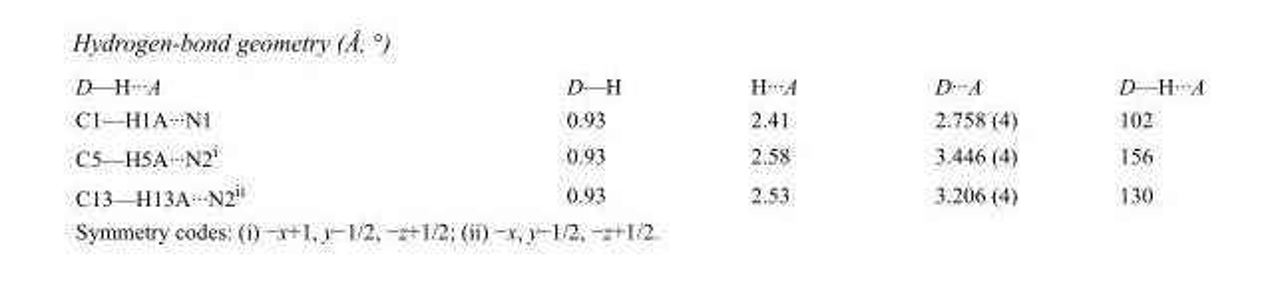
<table><tbody><tr><td>D—H···A</td><td>D—H</td><td>H···A</td><td>D···A</td><td>D—H···A</td></tr><tr><td>C1—H1A···N1</td><td>0.93</td><td>2.41</td><td>2.758 (4)</td><td>102</td></tr><tr><td>C5—H5A···N2<sup>i</sup></td><td>0.93</td><td>2.58</td><td>3.446 (4)</td><td>156</td></tr><tr><td>C13—H13A···N2<sup>ii</sup></td><td>0.93</td><td>2.53</td><td>3.206 (4)</td><td>130</td></tr></tbody></table>